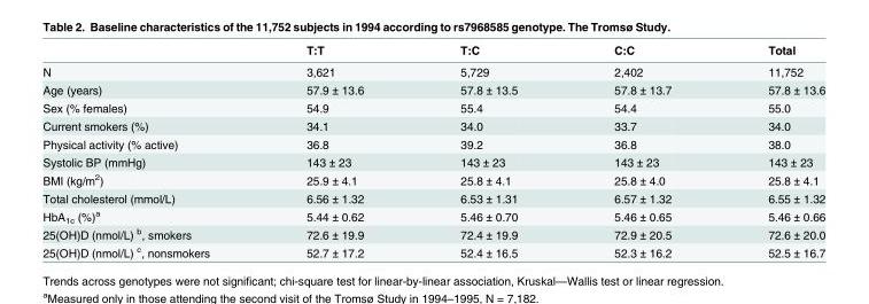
<table><thead><tr><td></td><td>T:T</td><td>T:C</td><td>C:C</td><td>Total</td></tr></thead><tbody><tr><td>N</td><td>3,621</td><td>5,729</td><td>2,402</td><td>11,752</td></tr><tr><td>Age (years)</td><td>57.9 ± 13.6</td><td>57.8 ± 13.5</td><td>57.8 ± 13.7</td><td>57.8 ± 13.6</td></tr><tr><td>Sex (% females)</td><td>54.9</td><td>55.4</td><td>54.4</td><td>55.0</td></tr><tr><td>Current smokers (%)</td><td>34.1</td><td>34.0</td><td>33.7</td><td>34.0</td></tr><tr><td>Physical activity (% active)</td><td>36.8</td><td>39.2</td><td>36.8</td><td>38.0</td></tr><tr><td>Systolic BP (mmHg)</td><td>143 ± 23</td><td>143 ± 23</td><td>143 ± 23</td><td>143 ± 23</td></tr><tr><td>BMI (kg/m<sup>2</sup>)</td><td>25.9 ± 4.1</td><td>25.8 ± 4.1</td><td>25.8 ± 4.0</td><td>25.8 ± 4.1</td></tr><tr><td>Total cholesterol (mmol/L)</td><td>6.56 ± 1.32</td><td>6.53 ± 1.31</td><td>6.57 ± 1.32</td><td>6.55 ± 1.32</td></tr><tr><td>HbA<sub>1c</sub> (%)<sup>a</sup></td><td>5.44 ± 0.62</td><td>5.46 ± 0.70</td><td>5.46 ± 0.65</td><td>5.46 ± 0.66</td></tr><tr><td>25(OH)D (nmol/L) <sup>b</sup>, smokers</td><td>72.6 ± 19.9</td><td>72.4 ± 19.9</td><td>72.9 ± 20.5</td><td>72.6 ± 20.0</td></tr><tr><td>25(OH)D (nmol/L) <sup>c</sup>, nonsmokers</td><td>52.7 ± 17.2</td><td>52.4 ± 16.5</td><td>52.3 ± 16.2</td><td>52.5 ± 16.7</td></tr></tbody></table>